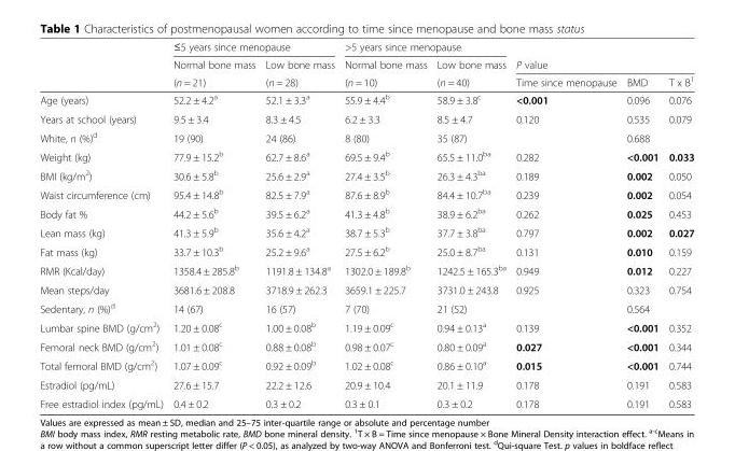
<table><thead><tr><td rowspan="3"></td><td colspan="2">≤5 years since menopause</td><td colspan="2">&gt;5 years since menopause</td><td></td><td></td><td></td></tr><tr><td rowspan="2">Normal bone mass (n = 21)</td><td rowspan="2">Low bone mass (n = 28)</td><td rowspan="2">Normal bone mass (n = 10)</td><td rowspan="2">Low bone mass (n = 40)</td><td colspan="3">P value</td></tr><tr><td>Time since menopause</td><td>BMD</td><td>T x B<sup>1</sup></td></tr></thead><tbody><tr><td>Age (years)</td><td>52.2 ± 4.2<sup>a</sup></td><td>52.1 ± 3.3<sup>a</sup></td><td>55.9 ± 4.4<sup>b</sup></td><td>58.9 ± 3.8<sup>c</sup></td><td>&lt;0.001</td><td>0.096</td><td>0.076</td></tr><tr><td>Years at school (years)</td><td>9.5 ± 3.4</td><td>8.3 ± 4.5</td><td>6.2 ± 3.3</td><td>8.5 ± 4.7</td><td>0.120</td><td>0.535</td><td>0.079</td></tr><tr><td>White, n (%)<sup>d</sup></td><td>19 (90)</td><td>24 (86)</td><td>8 (80)</td><td>35 (87)</td><td></td><td>0.688</td><td></td></tr><tr><td>Weight (kg)</td><td>77.9 ± 15.2<sup>b</sup></td><td>62.7 ± 8.6<sup>a</sup></td><td>69.5 ± 9.4<sup>b</sup></td><td>65.5 ± 11.0<sup>ba</sup></td><td>0.282</td><td>&lt;0.001</td><td>0.033</td></tr><tr><td>BMI (kg/m<sup>2</sup>)</td><td>30.6 ± 5.8<sup>b</sup></td><td>25.6 ± 2.9<sup>a</sup></td><td>27.4 ± 3.5<sup>b</sup></td><td>26.3 ± 4.3<sup>ba</sup></td><td>0.189</td><td>0.002</td><td>0.050</td></tr><tr><td>Waist circumference (cm)</td><td>95.4 ± 14.8<sup>b</sup></td><td>82.5 ± 7.9<sup>a</sup></td><td>87.6 ± 8.9<sup>b</sup></td><td>84.4 ± 10.7<sup>ba</sup></td><td>0.239</td><td>0.002</td><td>0.054</td></tr><tr><td>Body fat %</td><td>44.2 ± 5.6<sup>b</sup></td><td>39.5 ± 6.2<sup>a</sup></td><td>41.3 ± 4.8<sup>b</sup></td><td>38.9 ± 6.2<sup>ba</sup></td><td>0.262</td><td>0.025</td><td>0.453</td></tr><tr><td>Lean mass (kg)</td><td>41.3 ± 5.9<sup>b</sup></td><td>35.6 ± 4.2<sup>a</sup></td><td>38.7 ± 5.3<sup>b</sup></td><td>37.7 ± 3.8<sup>ba</sup></td><td>0.797</td><td>0.002</td><td>0.027</td></tr><tr><td>Fat mass (kg)</td><td>33.7 ± 10.3<sup>b</sup></td><td>25.2 ± 9.6<sup>a</sup></td><td>27.5 ± 6.2<sup>b</sup></td><td>25.0 ± 8.7<sup>ba</sup></td><td>0.131</td><td>0.010</td><td>0.159</td></tr><tr><td>RMR (Kcal/day)</td><td>1358.4 ± 285.8<sup>b</sup></td><td>1191.8 ± 134.8<sup>a</sup></td><td>1302.0 ± 189.8<sup>b</sup></td><td>1242.5 ± 165.3<sup>ba</sup></td><td>0.949</td><td>0.012</td><td>0.227</td></tr><tr><td>Mean steps/day</td><td>3681.6 ± 208.8</td><td>3718.9 ± 262.3</td><td>3659.1 ± 225.7</td><td>3731.0 ± 243.8</td><td>0.925</td><td>0.323</td><td>0.754</td></tr><tr><td>Sedentary, n (%)<sup>d</sup></td><td>14 (67)</td><td>16 (57)</td><td>7 (70)</td><td>21 (52)</td><td></td><td>0.564</td><td></td></tr><tr><td>Lumbar spine BMD (g/cm<sup>2</sup>)</td><td>1.20 ± 0.08<sup>c</sup></td><td>1.00 ± 0.08<sup>b</sup></td><td>1.19 ± 0.09<sup>c</sup></td><td>0.94 ± 0.13<sup>a</sup></td><td>0.139</td><td>&lt;0.001</td><td>0.352</td></tr><tr><td>Femoral neck BMD (g/cm<sup>2</sup>)</td><td>1.01 ± 0.08<sup>c</sup></td><td>0.88 ± 0.08<sup>b</sup></td><td>0.98 ± 0.07<sup>c</sup></td><td>0.80 ± 0.09<sup>a</sup></td><td>0.027</td><td>&lt;0.001</td><td>0.344</td></tr><tr><td>Total femoral BMD (g/cm<sup>2</sup>)</td><td>1.07 ± 0.09<sup>c</sup></td><td>0.92 ± 0.09<sup>b</sup></td><td>1.02 ± 0.08<sup>c</sup></td><td>0.86 ± 0.10<sup>a</sup></td><td>0.015</td><td>&lt;0.001</td><td>0.744</td></tr><tr><td>Estradiol (pg/mL)</td><td>27.6 ± 15.7</td><td>22.2 ± 12.6</td><td>20.9 ± 10.4</td><td>20.1 ± 11.9</td><td>0.178</td><td>0.191</td><td>0.583</td></tr><tr><td>Free estradiol index (pg/mL)</td><td>0.4 ± 0.2</td><td>0.3 ± 0.2</td><td>0.3 ± 0.1</td><td>0.3 ± 0.2</td><td>0.178</td><td>0.191</td><td>0.583</td></tr></tbody></table>